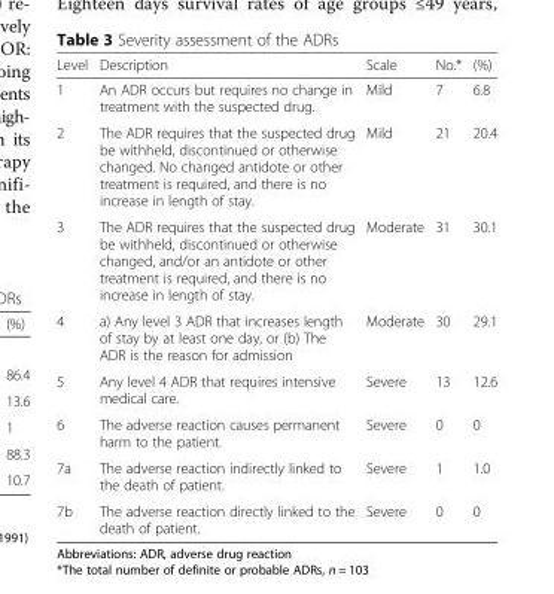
<table><thead><tr><td>Level</td><td>Description</td><td>Scale</td><td>No.*</td><td>(%)</td></tr></thead><tbody><tr><td>1</td><td>An ADR occurs but requires no change in treatment with the suspected drug.</td><td>Mild</td><td>7</td><td>6.8</td></tr><tr><td>2</td><td>The ADR requires that the suspected drug be withheld, discontinued or otherwise changed. No changed antidote or other treatment is required, and there is no increase in length of stay.</td><td>Mild</td><td>21</td><td>20.4</td></tr><tr><td>3</td><td>The ADR requires that the suspected drug be withheld, discontinued or otherwise changed, and/or an antidote or other treatment is required, and there is no increase in length of stay.</td><td>Moderate</td><td>31</td><td>30.1</td></tr><tr><td>4</td><td>a) Any level 3 ADR that increases length of stay by at least one day, or (b) The ADR is the reason for admission</td><td>Moderate</td><td>30</td><td>29.1</td></tr><tr><td>5</td><td>Any level 4 ADR that requires intensive medical care.</td><td>Severe</td><td>13</td><td>12.6</td></tr><tr><td>6</td><td>The adverse reaction causes permanent harm to the patient.</td><td>Severe</td><td>0</td><td>0</td></tr><tr><td>7a</td><td>The adverse reaction indirectly linked to the death of patient.</td><td>Severe</td><td>1</td><td>1.0</td></tr><tr><td>7b</td><td>The adverse reaction directly linked to the death of patient.</td><td>Severe</td><td>0</td><td>0</td></tr></tbody></table>